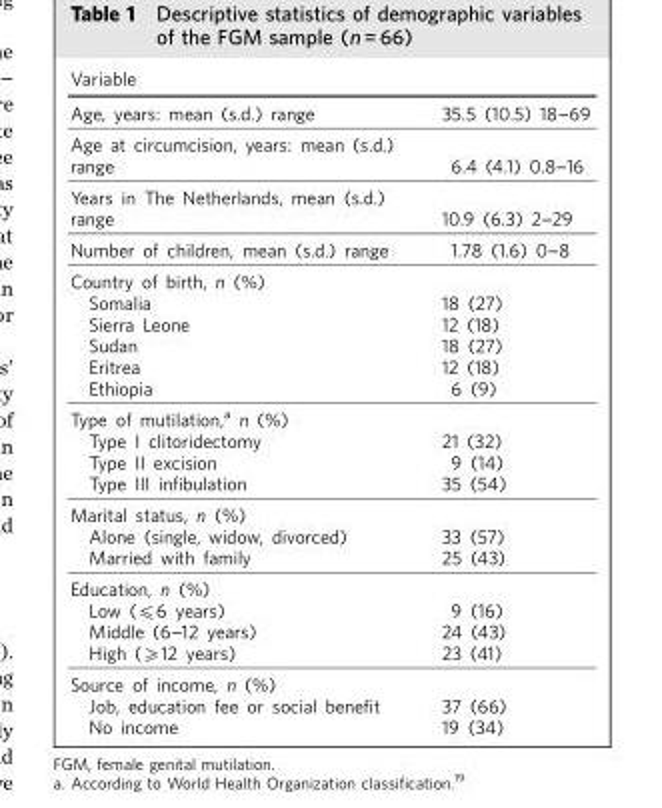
<table><thead><tr><td>Variable</td><td></td></tr></thead><tbody><tr><td>Age, years: mean (s.d.) range</td><td>35.5 (10.5) 18-69</td></tr><tr><td>Age at circumcision, years: mean (s.d.) range</td><td>6.4 (4.1) 0.8-16</td></tr><tr><td>Years in The Netherlands, mean (s.d.) range</td><td>10.9 (6.3) 2-29</td></tr><tr><td>Number of children, mean (s.d.) range</td><td>1.78 (1.6) 0-8</td></tr><tr><td colspan="2">Country of birth, n (%)</td></tr><tr><td>Somalia</td><td>18 (27)</td></tr><tr><td>Sierra Leone</td><td>12 (18)</td></tr><tr><td>Sudan</td><td>18 (27)</td></tr><tr><td>Eritrea</td><td>12 (18)</td></tr><tr><td>Ethiopia</td><td>6 (9)</td></tr><tr><td colspan="2">Type of mutilation,<sup>a</sup> n (%)</td></tr><tr><td>Type I clitoridectomy</td><td>21 (32)</td></tr><tr><td>Type II excision</td><td>9 (14)</td></tr><tr><td>Type III infibulation</td><td>35 (54)</td></tr><tr><td colspan="2">Marital status, n (%)</td></tr><tr><td>Alone (single, widow, divorced)</td><td>33 (57)</td></tr><tr><td>Married with family</td><td>25 (43)</td></tr><tr><td colspan="2">Education, n (%)</td></tr><tr><td>Low (⩽6 years)</td><td>9 (16)</td></tr><tr><td>Middle (6-12 years)</td><td>24 (43)</td></tr><tr><td>High (⩾12 years)</td><td>23 (41)</td></tr><tr><td colspan="2">Source of income, n (%)</td></tr><tr><td>Job, education fee or social benefit</td><td>37 (66)</td></tr><tr><td>No income</td><td>19 (34)</td></tr></tbody></table>